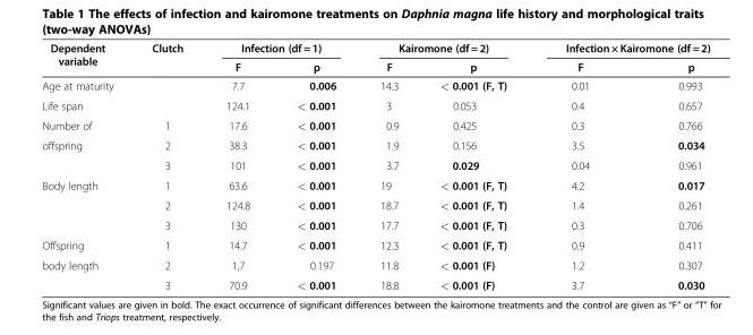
<table><thead><tr><td rowspan="2">Dependent variable</td><td rowspan="2">Clutch</td><td colspan="2">Infection (df = 1)</td><td colspan="2">Kairomone (df = 2)</td><td colspan="2">Infection × Kairomone (df = 2)</td></tr><tr><td>F</td><td>p</td><td>F</td><td>p</td><td>F</td><td>p</td></tr></thead><tbody><tr><td>Age at maturity</td><td></td><td>7.7</td><td>0.006</td><td>14.3</td><td>&lt; 0.001 (F, T)</td><td>0.01</td><td>0.993</td></tr><tr><td>Life span</td><td></td><td>124.1</td><td>&lt; 0.001</td><td>3</td><td>0.053</td><td>0.4</td><td>0.657</td></tr><tr><td rowspan="3">Number of offspring</td><td>1</td><td>17.6</td><td>&lt; 0.001</td><td>0.9</td><td>0.425</td><td>0.3</td><td>0.766</td></tr><tr><td>2</td><td>38.3</td><td>&lt; 0.001</td><td>1.9</td><td>0.156</td><td>3.5</td><td>0.034</td></tr><tr><td>3</td><td>101</td><td>&lt; 0.001</td><td>3.7</td><td>0.029</td><td>0.04</td><td>0.961</td></tr><tr><td rowspan="3">Body length</td><td>1</td><td>63.6</td><td>&lt; 0.001</td><td>19</td><td>&lt; 0.001 (F, T)</td><td>4.2</td><td>0.017</td></tr><tr><td>2</td><td>124.8</td><td>&lt; 0.001</td><td>18.7</td><td>&lt; 0.001 (F, T)</td><td>1.4</td><td>0.261</td></tr><tr><td>3</td><td>130</td><td>&lt; 0.001</td><td>17.7</td><td>&lt; 0.001 (F, T)</td><td>0.3</td><td>0.706</td></tr><tr><td>Offspring</td><td>1</td><td>14.7</td><td>&lt; 0.001</td><td>12.3</td><td>&lt; 0.001 (F, T)</td><td>0.9</td><td>0.411</td></tr><tr><td rowspan="2">body length</td><td>2</td><td>1,7</td><td>0.197</td><td>11.8</td><td>&lt; 0.001 (F)</td><td>1.2</td><td>0.307</td></tr><tr><td>3</td><td>70.9</td><td>&lt; 0.001</td><td>18.8</td><td>&lt; 0.001 (F)</td><td>3.7</td><td>0.030</td></tr></tbody></table>